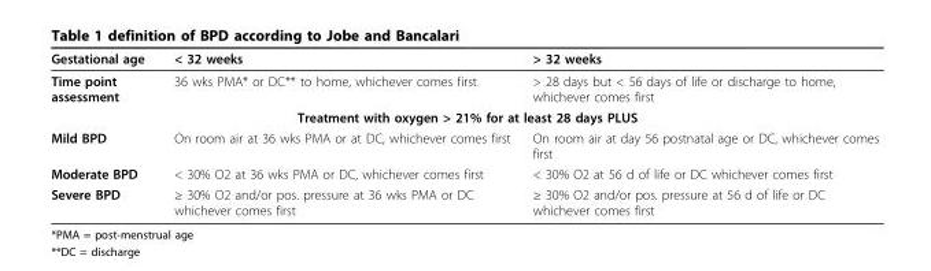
<table><thead><tr><td>Gestational age</td><td>&lt; 32 weeks</td><td>&gt; 32 weeks</td></tr></thead><tbody><tr><td>Time point assessment</td><td>36 wks PMA* or DC** to home, whichever comes first</td><td>&gt; 28 days but &lt; 56 days of life or discharge to home, whichever comes first</td></tr><tr><td colspan="3">Treatment with oxygen &gt; 21% for at least 28 days PLUS</td></tr><tr><td>Mild BPD</td><td>On room air at 36 wks PMA or at DC, whichever comes first</td><td>On room air at day 56 postnatal age or DC, whichever comes first</td></tr><tr><td>Moderate BPD</td><td>&lt; 30% O2 at 36 wks PMA or DC, whichever comes first</td><td>&lt; 30% O2 at 56 d of life or DC whichever comes first</td></tr><tr><td>Severe BPD</td><td>≥ 30% O2 and/or pos. pressure at 36 wks PMA or DC whichever comes first</td><td>≥ 30% O2 and/or pos. pressure at 56 d of life or DC whichever comes first</td></tr></tbody></table>